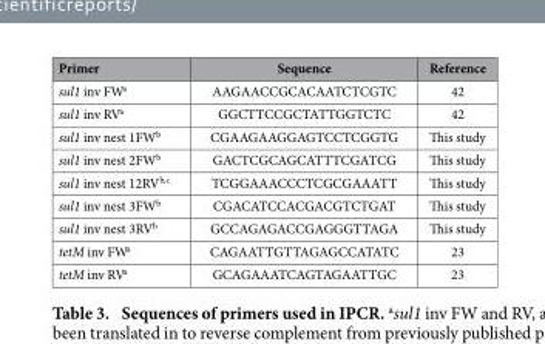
<table><thead><tr><td>Primer</td><td>Sequence</td><td>Reference</td></tr></thead><tbody><tr><td>sul1 inv FW<sup>a</sup></td><td>AAGAACCGCACAATCTCGTC</td><td>42</td></tr><tr><td>sul1 inv RV<sup>a</sup></td><td>GGCTTCCGCTATTGGTCTC</td><td>42</td></tr><tr><td>sul1 inv nest 1FW<sup>b</sup></td><td>CGAAGAAGGAGTCCTCGGTG</td><td>This study</td></tr><tr><td>sul1 inv nest 2FW<sup>b</sup></td><td>GACTCGCAGCATTTCGATCG</td><td>This study</td></tr><tr><td>sul1 inv nest 12RV<sup>b</sup>,<sup>c</sup></td><td>TCGGAAACCCTCGCGAAATT</td><td>This study</td></tr><tr><td>sul1 inv nest 3FW<sup>b</sup></td><td>CGACATCCACGACGTCTGAT</td><td>This study</td></tr><tr><td>sul1 inv nest 3RV<sup>b</sup></td><td>GCCAGAGACCGAGGGTTAGA</td><td>This study</td></tr><tr><td>tetM inv FW<sup>a</sup></td><td>CAGAATTGTTAGAGCCATATC</td><td>23</td></tr><tr><td>tetM inv RV<sup>a</sup></td><td>GCAGAAATCAGTAGAATTGC</td><td>23</td></tr></tbody></table>